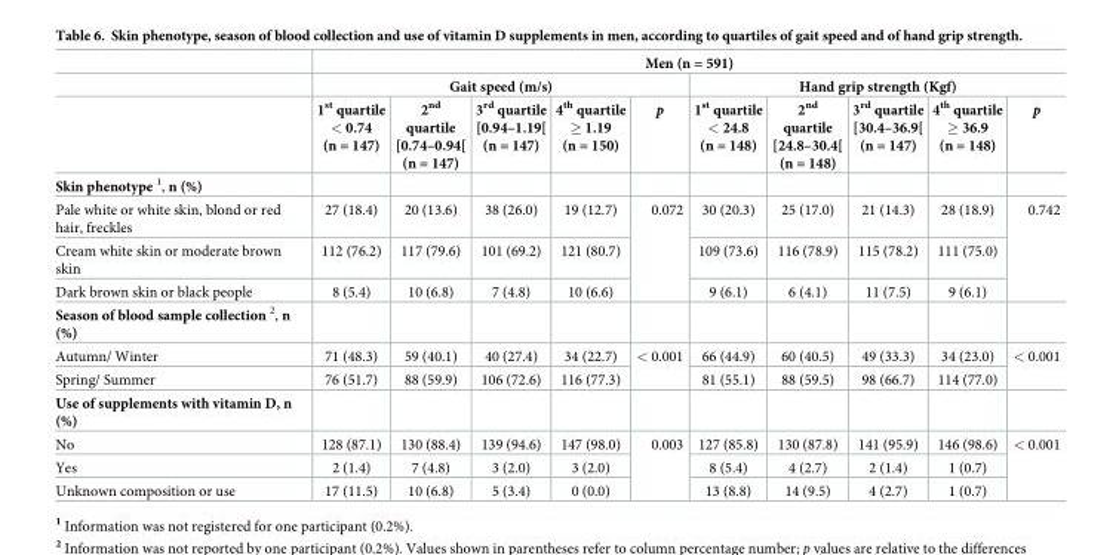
<table><thead><tr><td rowspan="3"></td><td colspan="10">Men (n = 591)</td></tr><tr><td colspan="5">Gait speed (m/s)</td><td colspan="5">Hand grip strength (Kgf)</td></tr><tr><td>1<sup>st</sup> quartile &lt; 0.74 (n = 147)</td><td>2<sup>nd</sup> quartile [0.74–0.94[ (n = 147)</td><td>3<sup>rd</sup> quartile [0.94–1.19[ (n = 147)</td><td>4<sup>th</sup> quartile ≥ 1.19 (n = 150)</td><td>p</td><td>1<sup>st</sup> quartile &lt; 24.8 (n = 148)</td><td>2<sup>nd</sup> quartile [24.8–30.4[ (n = 148)</td><td>3<sup>rd</sup> quartile [30.4–36.9[ (n = 147)</td><td>4<sup>th</sup> quartile ≥ 36.9 (n = 148)</td><td>p</td></tr></thead><tbody><tr><td colspan="11">Skin phenotype <sup>1</sup>, n (%)</td></tr><tr><td>Pale white or white skin, blond or red hair, freckles</td><td>27 (18.4)</td><td>20 (13.6)</td><td>38 (26.0)</td><td>19 (12.7)</td><td rowspan="3">0.072</td><td>30 (20.3)</td><td>25 (17.0)</td><td>21 (14.3)</td><td>28 (18.9)</td><td rowspan="3">0.742</td></tr><tr><td>Cream white skin or moderate brown skin</td><td>112 (76.2)</td><td>117 (79.6)</td><td>101 (69.2)</td><td>121 (80.7)</td><td>109 (73.6)</td><td>116 (78.9)</td><td>115 (78.2)</td><td>111 (75.0)</td></tr><tr><td>Dark brown skin or black people</td><td>8 (5.4)</td><td>10 (6.8)</td><td>7 (4.8)</td><td>10 (6.6)</td><td>9 (6.1)</td><td>6 (4.1)</td><td>11 (7.5)</td><td>9 (6.1)</td></tr><tr><td colspan="11">Season of blood sample collection <sup>2</sup>, n (%)</td></tr><tr><td>Autumn/ Winter</td><td>71 (48.3)</td><td>59 (40.1)</td><td>40 (27.4)</td><td>34 (22.7)</td><td rowspan="2">&lt; 0.001</td><td>66 (44.9)</td><td>60 (40.5)</td><td>49 (33.3)</td><td>34 (23.0)</td><td rowspan="2">&lt; 0.001</td></tr><tr><td>Spring/ Summer</td><td>76 (51.7)</td><td>88 (59.9)</td><td>106 (72.6)</td><td>116 (77.3)</td><td>81 (55.1)</td><td>88 (59.5)</td><td>98 (66.7)</td><td>114 (77.0)</td></tr><tr><td colspan="11">Use of supplements with vitamin D, n (%)</td></tr><tr><td>No</td><td>128 (87.1)</td><td>130 (88.4)</td><td>139 (94.6)</td><td>147 (98.0)</td><td rowspan="3">0.003</td><td>127 (85.8)</td><td>130 (87.8)</td><td>141 (95.9)</td><td>146 (98.6)</td><td rowspan="3">&lt; 0.001</td></tr><tr><td>Yes</td><td>2 (1.4)</td><td>7 (4.8)</td><td>3 (2.0)</td><td>3 (2.0)</td><td>8 (5.4)</td><td>4 (2.7)</td><td>2 (1.4)</td><td>1 (0.7)</td></tr><tr><td>Unknown composition or use</td><td>17 (11.5)</td><td>10 (6.8)</td><td>5 (3.4)</td><td>0 (0.0)</td><td>13 (8.8)</td><td>14 (9.5)</td><td>4 (2.7)</td><td>1 (0.7)</td></tr></tbody></table>